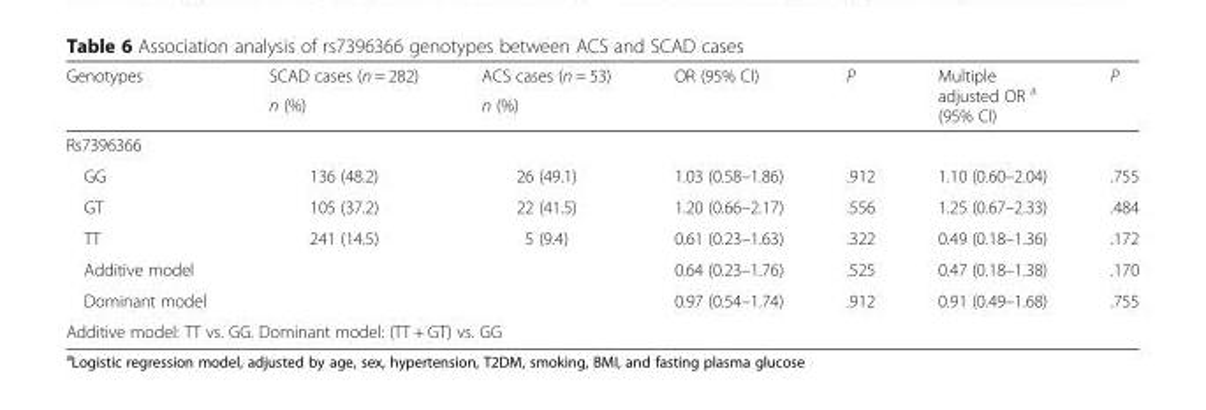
<table><thead><tr><td rowspan="2">Genotypes</td><td rowspan="2">SCAD cases (n = 282) n (%)</td><td rowspan="2">ACS cases (n = 53) n (%)</td><td rowspan="2">OR (95% CI)</td><td rowspan="2">P</td><td rowspan="2">Multiple adjusted OR <sup>a</sup> (95% CI)</td><td rowspan="2">P</td></tr><tr></tr></thead><tbody><tr><td colspan="7">Rs7396366</td></tr><tr><td>GG</td><td>136 (48.2)</td><td>26 (49.1)</td><td>1.03 (0.58–1.86)</td><td>.912</td><td>1.10 (0.60–2.04)</td><td>.755</td></tr><tr><td>GT</td><td>105 (37.2)</td><td>22 (41.5)</td><td>1.20 (0.66–2.17)</td><td>.556</td><td>1.25 (0.67–2.33)</td><td>.484</td></tr><tr><td>TT</td><td>241 (14.5)</td><td>5 (9.4)</td><td>0.61 (0.23–1.63)</td><td>.322</td><td>0.49 (0.18–1.36)</td><td>.172</td></tr><tr><td>Additive model</td><td></td><td></td><td>0.64 (0.23–1.76)</td><td>.525</td><td>0.47 (0.18–1.38)</td><td>.170</td></tr><tr><td>Dominant model</td><td></td><td></td><td>0.97 (0.54–1.74)</td><td>.912</td><td>0.91 (0.49–1.68)</td><td>.755</td></tr><tr><td colspan="7">Additive model: TT vs. GG. Dominant model: (TT + GT) vs. GG</td></tr></tbody></table>